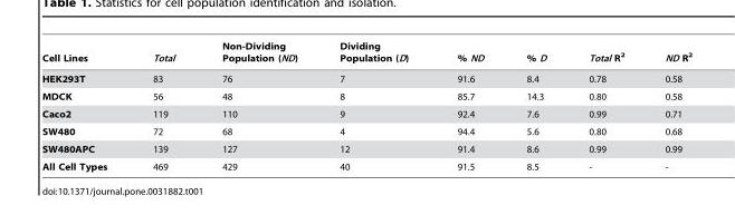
<table><thead><tr><td>Cell Lines</td><td>Total</td><td>Non-Dividing Population (ND)</td><td>Dividing Population (D)</td><td>% ND</td><td>% D</td><td>Total R<sup>2</sup></td><td>ND R<sup>2</sup></td></tr></thead><tbody><tr><td>HEK293T</td><td>83</td><td>76</td><td>7</td><td>91.6</td><td>8.4</td><td>0.78</td><td>0.58</td></tr><tr><td>MDCK</td><td>56</td><td>48</td><td>8</td><td>85.7</td><td>14.3</td><td>0.80</td><td>0.58</td></tr><tr><td>Caco2</td><td>119</td><td>110</td><td>9</td><td>92.4</td><td>7.6</td><td>0.99</td><td>0.71</td></tr><tr><td>SW480</td><td>72</td><td>68</td><td>4</td><td>94.4</td><td>5.6</td><td>0.80</td><td>0.68</td></tr><tr><td>SW480APC</td><td>139</td><td>127</td><td>12</td><td>91.4</td><td>8.6</td><td>0.99</td><td>0.99</td></tr><tr><td>All Cell Types</td><td>469</td><td>429</td><td>40</td><td>91.5</td><td>8.5</td><td>-</td><td>-</td></tr></tbody></table>